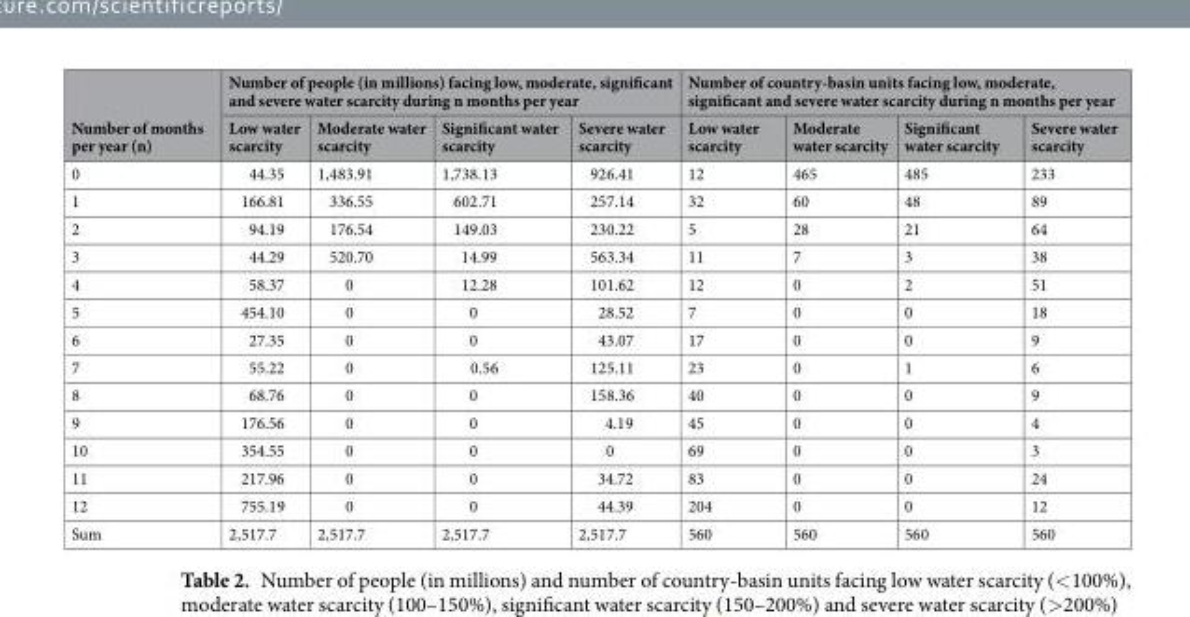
<table><thead><tr><td rowspan="2">Number of months per year (n)</td><td colspan="4">Number of people (in millions) facing low, moderate, significant and severe water scarcity during n months per year</td><td colspan="4">Number of country-basin units facing low, moderate, significant and severe water scarcity during n months per year</td></tr><tr><td>Low water scarcity</td><td>Moderate water scarcity</td><td>Significant water scarcity</td><td>Severe water scarcity</td><td>Low water scarcity</td><td>Moderate water scarcity</td><td>Significant water scarcity</td><td>Severe water scarcity</td></tr></thead><tbody><tr><td>0</td><td>44.35</td><td>1,483.91</td><td>1,738.13</td><td>926.41</td><td>12</td><td>465</td><td>485</td><td>233</td></tr><tr><td>1</td><td>166.81</td><td>336.55</td><td>602.71</td><td>257.14</td><td>32</td><td>60</td><td>48</td><td>89</td></tr><tr><td>2</td><td>94.19</td><td>176.54</td><td>149.03</td><td>230.22</td><td>5</td><td>28</td><td>21</td><td>64</td></tr><tr><td>3</td><td>44.29</td><td>520.70</td><td>14.99</td><td>563.34</td><td>11</td><td>7</td><td>3</td><td>38</td></tr><tr><td>4</td><td>58.37</td><td>0</td><td>12.28</td><td>101.62</td><td>12</td><td>0</td><td>2</td><td>51</td></tr><tr><td>5</td><td>454.10</td><td>0</td><td>0</td><td>28.52</td><td>7</td><td>0</td><td>0</td><td>18</td></tr><tr><td>6</td><td>27.35</td><td>0</td><td>0</td><td>43.07</td><td>17</td><td>0</td><td>0</td><td>9</td></tr><tr><td>7</td><td>55.22</td><td>0</td><td>0.56</td><td>125.11</td><td>23</td><td>0</td><td>1</td><td>6</td></tr><tr><td>8</td><td>68.76</td><td>0</td><td>0</td><td>158.36</td><td>40</td><td>0</td><td>0</td><td>9</td></tr><tr><td>9</td><td>176.56</td><td>0</td><td>0</td><td>4.19</td><td>45</td><td>0</td><td>0</td><td>4</td></tr><tr><td>10</td><td>354.55</td><td>0</td><td>0</td><td>0</td><td>69</td><td>0</td><td>0</td><td>3</td></tr><tr><td>11</td><td>217.96</td><td>0</td><td>0</td><td>34.72</td><td>83</td><td>0</td><td>0</td><td>24</td></tr><tr><td>12</td><td>755.19</td><td>0</td><td>0</td><td>44.39</td><td>204</td><td>0</td><td>0</td><td>12</td></tr><tr><td>Sum</td><td>2,517.7</td><td>2,517.7</td><td>2,517.7</td><td>2,517.7</td><td>560</td><td>560</td><td>560</td><td>560</td></tr></tbody></table>